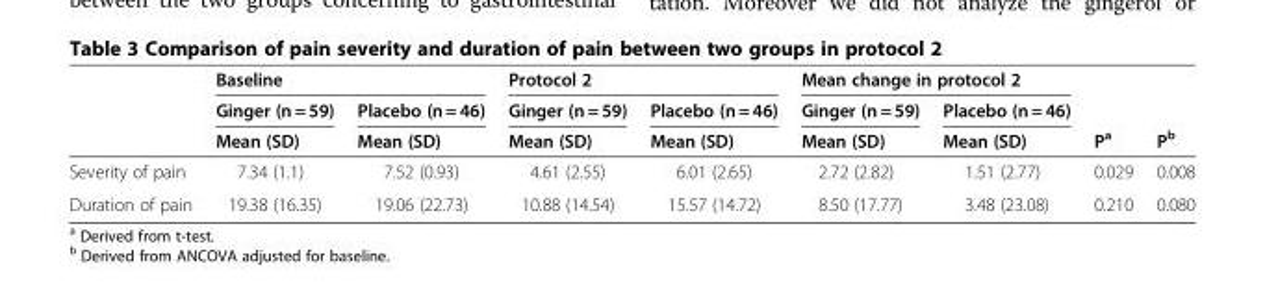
<table><thead><tr><td rowspan="3"></td><td colspan="2">Baseline</td><td colspan="2">Protocol 2</td><td colspan="2">Mean change in protocol 2</td><td rowspan="3">P<sup>a</sup></td><td rowspan="3">P<sup>b</sup></td></tr><tr><td rowspan="2">Ginger (n = 59) Mean (SD)</td><td rowspan="2">Placebo (n = 46) Mean (SD)</td><td rowspan="2">Ginger (n = 59) Mean (SD)</td><td rowspan="2">Placebo (n = 46) Mean (SD)</td><td rowspan="2">Ginger (n = 59) Mean (SD)</td><td rowspan="2">Placebo (n = 46) Mean (SD)</td></tr><tr></tr></thead><tbody><tr><td>Severity of pain</td><td>7.34 (1.1)</td><td>7.52 (0.93)</td><td>4.61 (2.55)</td><td>6.01 (2.65)</td><td>2.72 (2.82)</td><td>1.51 (2.77)</td><td>0.029</td><td>0.008</td></tr><tr><td>Duration of pain</td><td>19.38 (16.35)</td><td>19.06 (22.73)</td><td>10.88 (14.54)</td><td>15.57 (14.72)</td><td>8.50 (17.77)</td><td>3.48 (23.08)</td><td>0.210</td><td>0.080</td></tr></tbody></table>